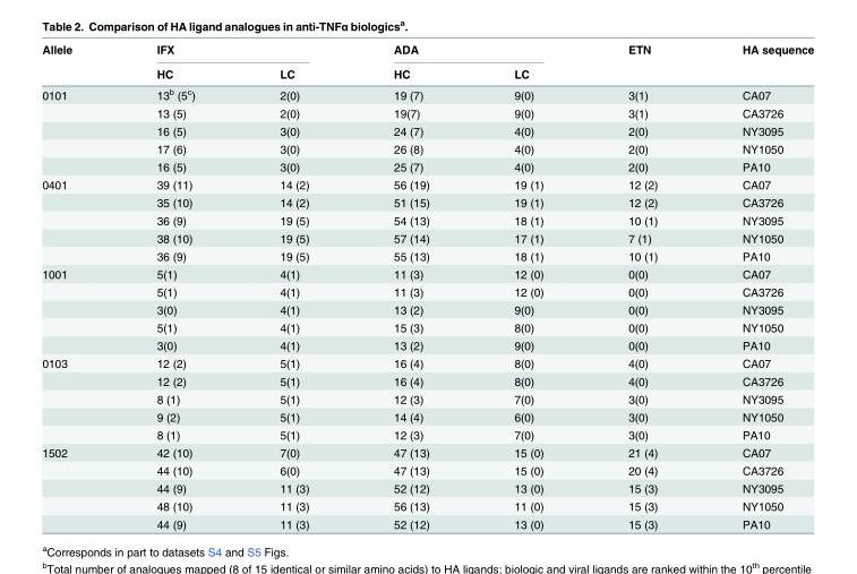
<table><thead><tr><td rowspan="2">Allele</td><td colspan="2">IFX</td><td colspan="2">ADA</td><td rowspan="2">ETN</td><td rowspan="2">HA sequence</td></tr><tr><td>HC</td><td>LC</td><td>HC</td><td>LC</td></tr></thead><tbody><tr><td rowspan="5">0101</td><td>13<sup>b</sup> (5<sup>c</sup>)</td><td>2(0)</td><td>19 (7)</td><td>9(0)</td><td>3(1)</td><td>CA07</td></tr><tr><td>13 (5)</td><td>2(0)</td><td>19(7)</td><td>9(0)</td><td>3(1)</td><td>CA3726</td></tr><tr><td>16 (5)</td><td>3(0)</td><td>24 (7)</td><td>4(0)</td><td>2(0)</td><td>NY3095</td></tr><tr><td>17 (6)</td><td>3(0)</td><td>26 (8)</td><td>4(0)</td><td>2(0)</td><td>NY1050</td></tr><tr><td>16 (5)</td><td>3(0)</td><td>25 (7)</td><td>4(0)</td><td>2(0)</td><td>PA10</td></tr><tr><td rowspan="5">0401</td><td>39 (11)</td><td>14 (2)</td><td>56 (19)</td><td>19 (1)</td><td>12 (2)</td><td>CA07</td></tr><tr><td>35 (10)</td><td>14 (2)</td><td>51 (15)</td><td>19 (1)</td><td>12 (2)</td><td>CA3726</td></tr><tr><td>36 (9)</td><td>19 (5)</td><td>54 (13)</td><td>18 (1)</td><td>10 (1)</td><td>NY3095</td></tr><tr><td>38 (10)</td><td>19 (5)</td><td>57 (14)</td><td>17 (1)</td><td>7 (1)</td><td>NY1050</td></tr><tr><td>36 (9)</td><td>19 (5)</td><td>55 (13)</td><td>18 (1)</td><td>10 (1)</td><td>PA10</td></tr><tr><td rowspan="5">1001</td><td>5(1)</td><td>4(1)</td><td>11 (3)</td><td>12 (0)</td><td>0(0)</td><td>CA07</td></tr><tr><td>5(1)</td><td>4(1)</td><td>11 (3)</td><td>12 (0)</td><td>0(0)</td><td>CA3726</td></tr><tr><td>3(0)</td><td>4(1)</td><td>13 (2)</td><td>9(0)</td><td>0(0)</td><td>NY3095</td></tr><tr><td>5(1)</td><td>4(1)</td><td>15 (3)</td><td>8(0)</td><td>0(0)</td><td>NY1050</td></tr><tr><td>3(0)</td><td>4(1)</td><td>13 (2)</td><td>9(0)</td><td>0(0)</td><td>PA10</td></tr><tr><td rowspan="5">0103</td><td>12 (2)</td><td>5(1)</td><td>16 (4)</td><td>8(0)</td><td>4(0)</td><td>CA07</td></tr><tr><td>12 (2)</td><td>5(1)</td><td>16 (4)</td><td>8(0)</td><td>4(0)</td><td>CA3726</td></tr><tr><td>8 (1)</td><td>5(1)</td><td>12 (3)</td><td>7(0)</td><td>3(0)</td><td>NY3095</td></tr><tr><td>9 (2)</td><td>5(1)</td><td>14 (4)</td><td>6(0)</td><td>3(0)</td><td>NY1050</td></tr><tr><td>8 (1)</td><td>5(1)</td><td>12 (3)</td><td>7(0)</td><td>3(0)</td><td>PA10</td></tr><tr><td rowspan="5">1502</td><td>42 (10)</td><td>7(0)</td><td>47 (13)</td><td>15 (0)</td><td>21 (4)</td><td>CA07</td></tr><tr><td>44 (10)</td><td>6(0)</td><td>47 (13)</td><td>15 (0)</td><td>20 (4)</td><td>CA3726</td></tr><tr><td>44 (9)</td><td>11 (3)</td><td>52 (12)</td><td>13 (0)</td><td>15 (3)</td><td>NY3095</td></tr><tr><td>48 (10)</td><td>11 (3)</td><td>56 (13)</td><td>11 (0)</td><td>15 (3)</td><td>NY1050</td></tr><tr><td>44 (9)</td><td>11 (3)</td><td>52 (12)</td><td>13 (0)</td><td>15 (3)</td><td>PA10</td></tr></tbody></table>